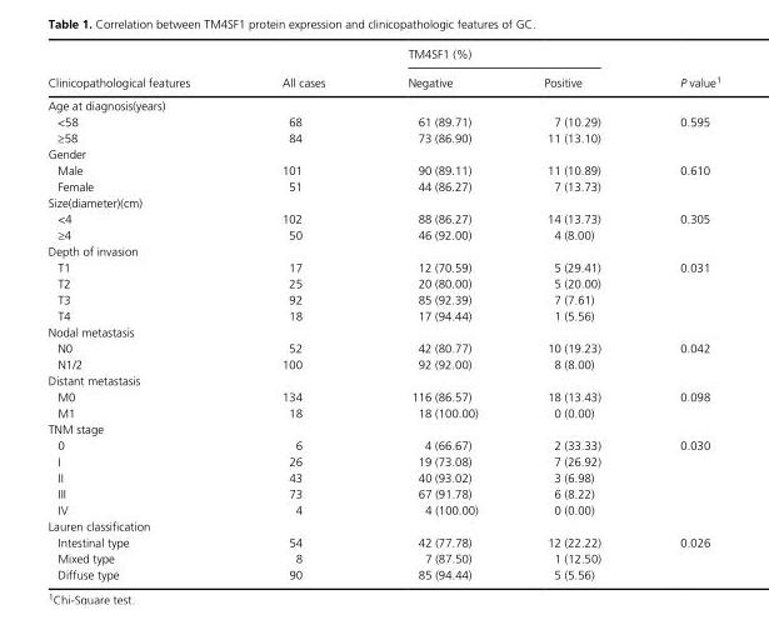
<table><thead><tr><td rowspan="2">Clinicopathological features</td><td rowspan="2">All cases</td><td colspan="2">TM4SF1 (%)</td><td rowspan="2">P value1</td></tr><tr><td>Negative</td><td>Positive</td></tr></thead><tbody><tr><td colspan="5">Age at diagnosis(years)</td></tr><tr><td>&lt;58</td><td>68</td><td>61 (89.71)</td><td>7 (10.29)</td><td rowspan="2">0.595</td></tr><tr><td>≥58</td><td>84</td><td>73 (86.90)</td><td>11 (13.10)</td></tr><tr><td colspan="5">Gender</td></tr><tr><td>Male</td><td>101</td><td>90 (89.11)</td><td>11 (10.89)</td><td rowspan="2">0.610</td></tr><tr><td>Female</td><td>51</td><td>44 (86.27)</td><td>7 (13.73)</td></tr><tr><td colspan="5">Size(diameter)(cm)</td></tr><tr><td>&lt;4</td><td>102</td><td>88 (86.27)</td><td>14 (13.73)</td><td rowspan="2">0.305</td></tr><tr><td>≥4</td><td>50</td><td>46 (92.00)</td><td>4 (8.00)</td></tr><tr><td colspan="5">Depth of invasion</td></tr><tr><td>T1</td><td>17</td><td>12 (70.59)</td><td>5 (29.41)</td><td rowspan="4">0.031</td></tr><tr><td>T2</td><td>25</td><td>20 (80.00)</td><td>5 (20.00)</td></tr><tr><td>T3</td><td>92</td><td>85 (92.39)</td><td>7 (7.61)</td></tr><tr><td>T4</td><td>18</td><td>17 (94.44)</td><td>1 (5.56)</td></tr><tr><td colspan="5">Nodal metastasis</td></tr><tr><td>N0</td><td>52</td><td>42 (80.77)</td><td>10 (19.23)</td><td rowspan="2">0.042</td></tr><tr><td>N1/2</td><td>100</td><td>92 (92.00)</td><td>8 (8.00)</td></tr><tr><td colspan="5">Distant metastasis</td></tr><tr><td>M0</td><td>134</td><td>116 (86.57)</td><td>18 (13.43)</td><td rowspan="2">0.098</td></tr><tr><td>M1</td><td>18</td><td>18 (100.00)</td><td>0 (0.00)</td></tr><tr><td colspan="5">TNM stage</td></tr><tr><td>0</td><td>6</td><td>4 (66.67)</td><td>2 (33.33)</td><td rowspan="5">0.030</td></tr><tr><td>I</td><td>26</td><td>19 (73.08)</td><td>7 (26.92)</td></tr><tr><td>II</td><td>43</td><td>40 (93.02)</td><td>3 (6.98)</td></tr><tr><td>III</td><td>73</td><td>67 (91.78)</td><td>6 (8.22)</td></tr><tr><td>IV</td><td>4</td><td>4 (100.00)</td><td>0 (0.00)</td></tr><tr><td colspan="5">Lauren classification</td></tr><tr><td>Intestinal type</td><td>54</td><td>42 (77.78)</td><td>12 (22.22)</td><td rowspan="3">0.026</td></tr><tr><td>Mixed type</td><td>8</td><td>7 (87.50)</td><td>1 (12.50)</td></tr><tr><td>Diffuse type</td><td>90</td><td>85 (94.44)</td><td>5 (5.56)</td></tr></tbody></table>